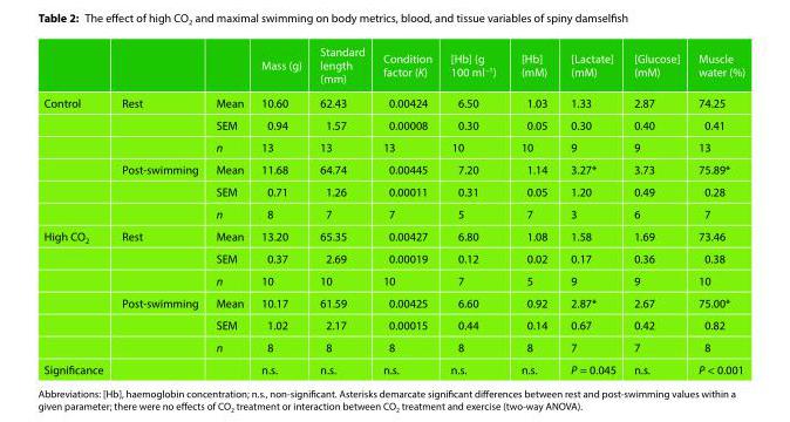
<table><thead><tr><td></td><td></td><td></td><td>Mass (g)</td><td>Standard length (mm)</td><td>Condition factor (K)</td><td>[Hb] (g 100 ml<sup>−1</sup>)</td><td>[Hb] (mM)</td><td>[Lactate] (mM)</td><td>[Glucose] (mM)</td><td>Muscle water (%)</td></tr></thead><tbody><tr><td rowspan="6">Control</td><td>Rest</td><td>Mean</td><td>10.60</td><td>62.43</td><td>0.00424</td><td>6.50</td><td>1.03</td><td>1.33</td><td>2.87</td><td>74.25</td></tr><tr><td></td><td>SEM</td><td>0.94</td><td>1.57</td><td>0.00008</td><td>0.30</td><td>0.05</td><td>0.30</td><td>0.40</td><td>0.41</td></tr><tr><td></td><td>n</td><td>13</td><td>13</td><td>13</td><td>10</td><td>10</td><td>9</td><td>9</td><td>13</td></tr><tr><td>Post-swimming</td><td>Mean</td><td>11.68</td><td>64.74</td><td>0.00445</td><td>7.20</td><td>1.14</td><td>3.27*</td><td>3.73</td><td>75.89*</td></tr><tr><td></td><td>SEM</td><td>0.71</td><td>1.26</td><td>0.00011</td><td>0.31</td><td>0.05</td><td>1.20</td><td>0.49</td><td>0.28</td></tr><tr><td></td><td>n</td><td>8</td><td>7</td><td>7</td><td>5</td><td>7</td><td>3</td><td>6</td><td>7</td></tr><tr><td rowspan="6">High CO<sub>2</sub></td><td>Rest</td><td>Mean</td><td>13.20</td><td>65.35</td><td>0.00427</td><td>6.80</td><td>1.08</td><td>1.58</td><td>1.69</td><td>73.46</td></tr><tr><td></td><td>SEM</td><td>0.37</td><td>2.69</td><td>0.00019</td><td>0.12</td><td>0.02</td><td>0.17</td><td>0.36</td><td>0.38</td></tr><tr><td></td><td>n</td><td>10</td><td>10</td><td>10</td><td>7</td><td>5</td><td>9</td><td>9</td><td>10</td></tr><tr><td>Post-swimming</td><td>Mean</td><td>10.17</td><td>61.59</td><td>0.00425</td><td>6.60</td><td>0.92</td><td>2.87*</td><td>2.67</td><td>75.00*</td></tr><tr><td></td><td>SEM</td><td>1.02</td><td>2.17</td><td>0.00015</td><td>0.44</td><td>0.14</td><td>0.67</td><td>0.42</td><td>0.82</td></tr><tr><td></td><td>n</td><td>8</td><td>8</td><td>8</td><td>8</td><td>8</td><td>7</td><td>7</td><td>8</td></tr><tr><td>Significance</td><td></td><td></td><td>n.s.</td><td>n.s.</td><td>n.s.</td><td>n.s.</td><td>n.s.</td><td>P = 0.045</td><td>n.s.</td><td>P &lt; 0.001</td></tr></tbody></table>